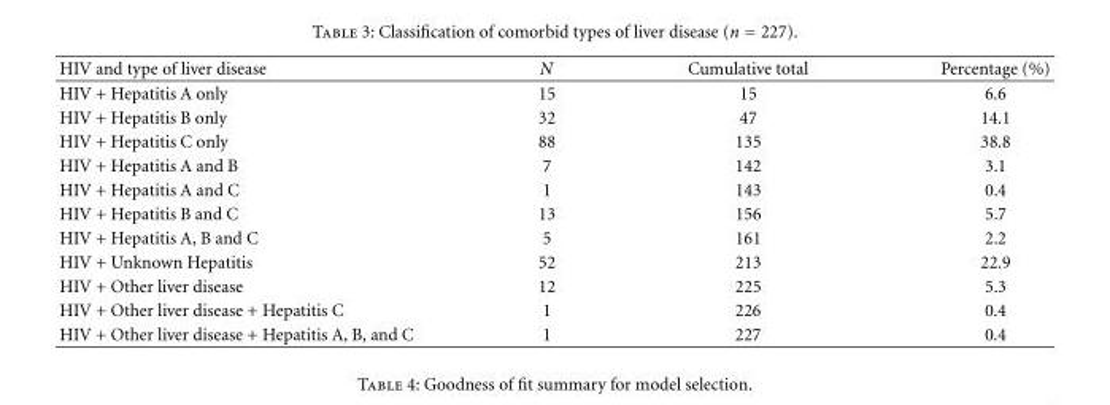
<table><thead><tr><td>HIV and type of liver disease</td><td>N</td><td>Cumulative total</td><td>Percentage (%)</td></tr></thead><tbody><tr><td>HIV + Hepatitis A only</td><td>15</td><td>15</td><td>6.6</td></tr><tr><td>HIV + Hepatitis B only</td><td>32</td><td>47</td><td>14.1</td></tr><tr><td>HIV + Hepatitis C only</td><td>88</td><td>135</td><td>38.8</td></tr><tr><td>HIV + Hepatitis A and B</td><td>7</td><td>142</td><td>3.1</td></tr><tr><td>HIV + Hepatitis A and C</td><td>1</td><td>143</td><td>0.4</td></tr><tr><td>HIV + Hepatitis B and C</td><td>13</td><td>156</td><td>5.7</td></tr><tr><td>HIV + Hepatitis A, B and C</td><td>5</td><td>161</td><td>2.2</td></tr><tr><td>HIV + Unknown Hepatitis</td><td>52</td><td>213</td><td>22.9</td></tr><tr><td>HIV + Other liver disease</td><td>12</td><td>225</td><td>5.3</td></tr><tr><td>HIV + Other liver disease + Hepatitis C</td><td>1</td><td>226</td><td>0.4</td></tr><tr><td>HIV + Other liver disease + Hepatitis A, B, and C</td><td>1</td><td>227</td><td>0.4</td></tr></tbody></table>